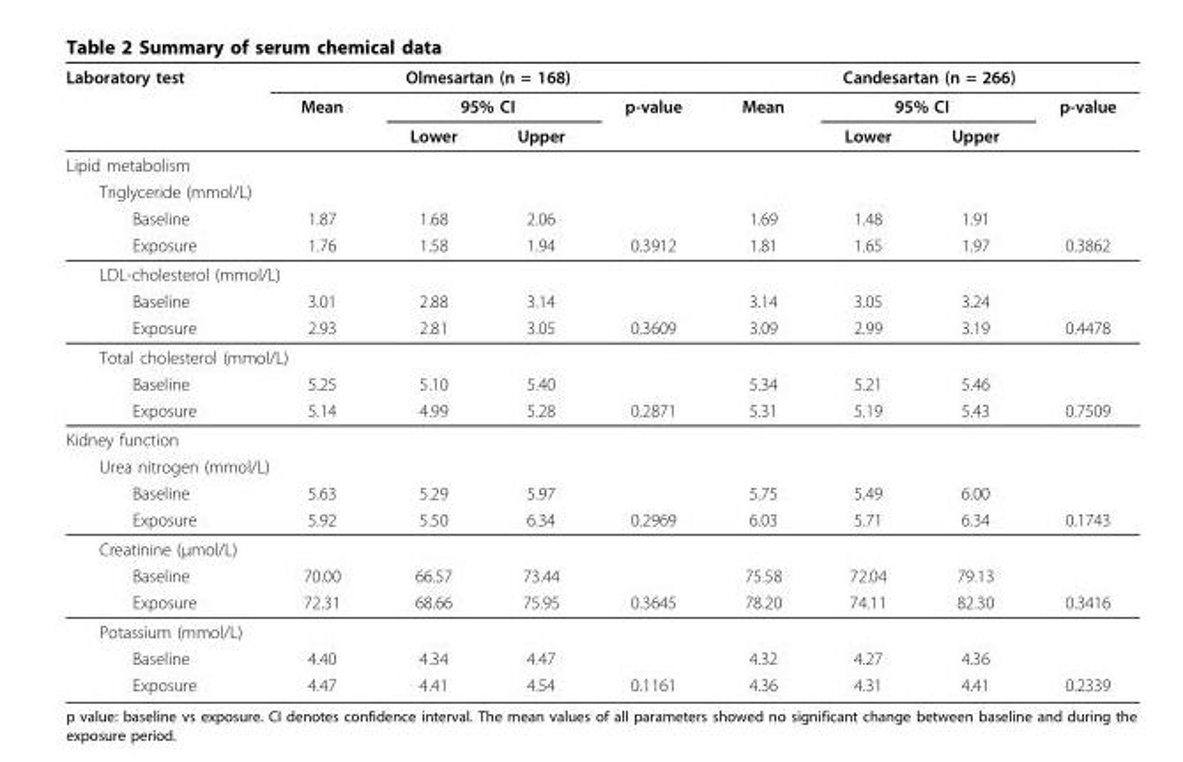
<table><thead><tr><td rowspan="3">Laboratory test</td><td colspan="4">Olmesartan (n = 168)</td><td colspan="4">Candesartan (n = 266)</td></tr><tr><td rowspan="2">Mean</td><td colspan="2">95% CI</td><td rowspan="2">p-value</td><td rowspan="2">Mean</td><td colspan="2">95% CI</td><td rowspan="2">p-value</td></tr><tr><td>Lower</td><td>Upper</td><td>Lower</td><td>Upper</td></tr></thead><tbody><tr><td colspan="9">Lipid metabolism</td></tr><tr><td colspan="9">Triglyceride (mmol/L)</td></tr><tr><td>Baseline</td><td>1.87</td><td>1.68</td><td>2.06</td><td></td><td>1.69</td><td>1.48</td><td>1.91</td><td></td></tr><tr><td>Exposure</td><td>1.76</td><td>1.58</td><td>1.94</td><td>0.3912</td><td>1.81</td><td>1.65</td><td>1.97</td><td>0.3862</td></tr><tr><td colspan="9">LDL-cholesterol (mmol/L)</td></tr><tr><td>Baseline</td><td>3.01</td><td>2.88</td><td>3.14</td><td></td><td>3.14</td><td>3.05</td><td>3.24</td><td></td></tr><tr><td>Exposure</td><td>2.93</td><td>2.81</td><td>3.05</td><td>0.3609</td><td>3.09</td><td>2.99</td><td>3.19</td><td>0.4478</td></tr><tr><td colspan="9">Total cholesterol (mmol/L)</td></tr><tr><td>Baseline</td><td>5.25</td><td>5.10</td><td>5.40</td><td></td><td>5.34</td><td>5.21</td><td>5.46</td><td></td></tr><tr><td>Exposure</td><td>5.14</td><td>4.99</td><td>5.28</td><td>0.2871</td><td>5.31</td><td>5.19</td><td>5.43</td><td>0.7509</td></tr><tr><td colspan="9">Kidney function</td></tr><tr><td colspan="9">Urea nitrogen (mmol/L)</td></tr><tr><td>Baseline</td><td>5.63</td><td>5.29</td><td>5.97</td><td></td><td>5.75</td><td>5.49</td><td>6.00</td><td></td></tr><tr><td>Exposure</td><td>5.92</td><td>5.50</td><td>6.34</td><td>0.2969</td><td>6.03</td><td>5.71</td><td>6.34</td><td>0.1743</td></tr><tr><td colspan="9">Creatinine (μmol/L)</td></tr><tr><td>Baseline</td><td>70.00</td><td>66.57</td><td>73.44</td><td></td><td>75.58</td><td>72.04</td><td>79.13</td><td></td></tr><tr><td>Exposure</td><td>72.31</td><td>68.66</td><td>75.95</td><td>0.3645</td><td>78.20</td><td>74.11</td><td>82.30</td><td>0.3416</td></tr><tr><td colspan="9">Potassium (mmol/L)</td></tr><tr><td>Baseline</td><td>4.40</td><td>4.34</td><td>4.47</td><td></td><td>4.32</td><td>4.27</td><td>4.36</td><td></td></tr><tr><td>Exposure</td><td>4.47</td><td>4.41</td><td>4.54</td><td>0.1161</td><td>4.36</td><td>4.31</td><td>4.41</td><td>0.2339</td></tr></tbody></table>